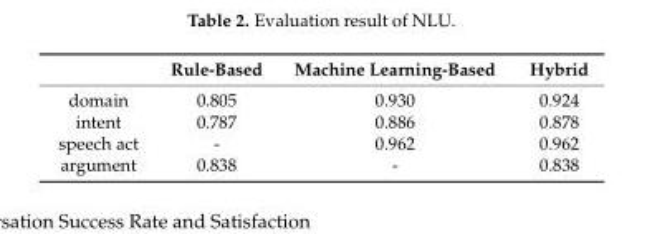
<table><thead><tr><td></td><td>Rule-Based</td><td>Machine Learning-Based</td><td>Hybrid</td></tr></thead><tbody><tr><td>domain</td><td>0.805</td><td>0.930</td><td>0.924</td></tr><tr><td>intent</td><td>0.787</td><td>0.886</td><td>0.878</td></tr><tr><td>speech act</td><td>-</td><td>0.962</td><td>0.962</td></tr><tr><td>argument</td><td>0.838</td><td>-</td><td>0.838</td></tr></tbody></table>